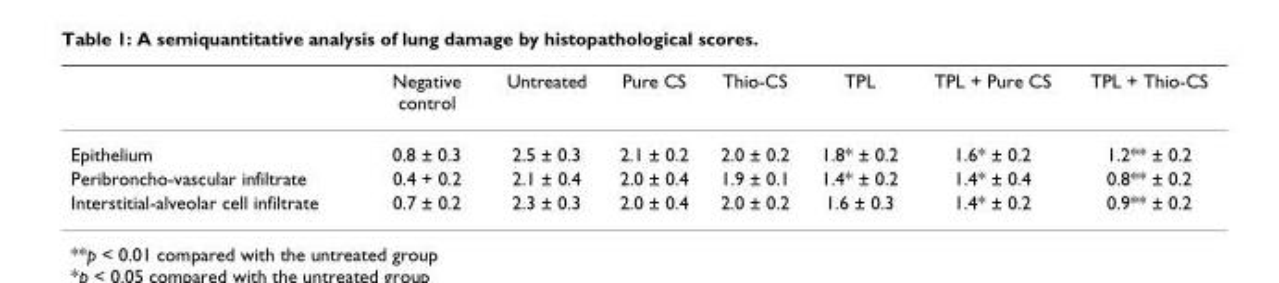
<table><thead><tr><td></td><td>Negative control</td><td>Untreated</td><td>Pure CS</td><td>Thio-CS</td><td>TPL</td><td>TPL + Pure CS</td><td>TPL + Thio-CS</td></tr></thead><tbody><tr><td>Epithelium</td><td>0.8 ± 0.3</td><td>2.5 ± 0.3</td><td>2.1 ± 0.2</td><td>2.0 ± 0.2</td><td>1.8* ± 0.2</td><td>1.6* ± 0.2</td><td>1.2** ± 0.2</td></tr><tr><td>Peribroncho-vascular infiltrate</td><td>0.4 + 0.2</td><td>2.1 ± 0.4</td><td>2.0 ± 0.4</td><td>1.9 ± 0.1</td><td>1.4* ± 0.2</td><td>1.4* ± 0.4</td><td>0.8** ± 0.2</td></tr><tr><td>Interstitial-alveolar cell infiltrate</td><td>0.7 ± 0.2</td><td>2.3 ± 0.3</td><td>2.0 ± 0.4</td><td>2.0 ± 0.2</td><td>1.6 ± 0.3</td><td>1.4* ± 0.2</td><td>0.9** ± 0.2</td></tr></tbody></table>